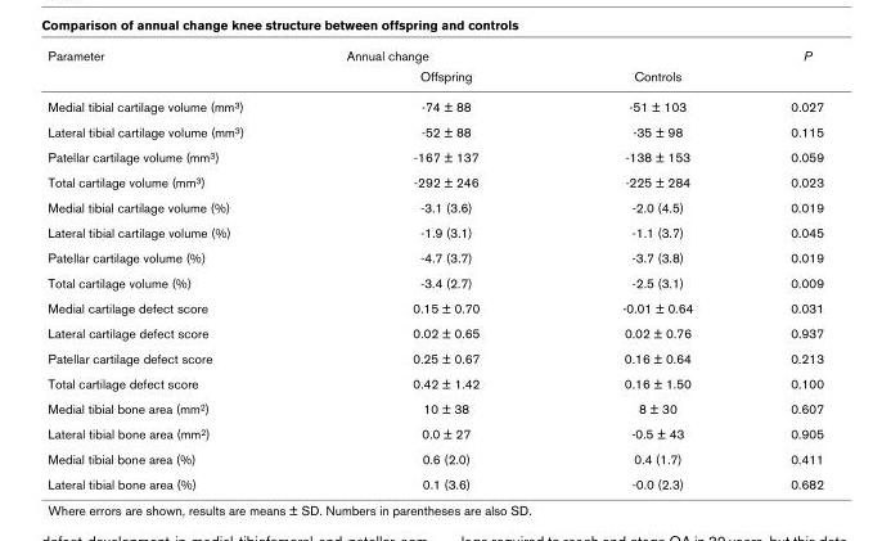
<table><thead><tr><td rowspan="2">Parameter</td><td colspan="2">Annual change</td><td rowspan="2">P</td></tr><tr><td>Offspring</td><td>Controls</td></tr></thead><tbody><tr><td>Medial tibial cartilage volume (mm3)</td><td>-74 ± 88</td><td>-51 ± 103</td><td>0.027</td></tr><tr><td>Lateral tibial cartilage volume (mm3)</td><td>-52 ± 88</td><td>-35 ± 98</td><td>0.115</td></tr><tr><td>Patellar cartilage volume (mm3)</td><td>-167 ± 137</td><td>-138 ± 153</td><td>0.059</td></tr><tr><td>Total cartilage volume (mm3)</td><td>-292 ± 246</td><td>-225 ± 284</td><td>0.023</td></tr><tr><td>Medial tibial cartilage volume (%)</td><td>-3.1 (3.6)</td><td>-2.0 (4.5)</td><td>0.019</td></tr><tr><td>Lateral tibial cartilage volume (%)</td><td>-1.9 (3.1)</td><td>-1.1 (3.7)</td><td>0.045</td></tr><tr><td>Patellar cartilage volume (%)</td><td>-4.7 (3.7)</td><td>-3.7 (3.8)</td><td>0.019</td></tr><tr><td>Total cartilage volume (%)</td><td>-3.4 (2.7)</td><td>-2.5 (3.1)</td><td>0.009</td></tr><tr><td>Medial cartilage defect score</td><td>0.15 ± 0.70</td><td>-0.01 ± 0.64</td><td>0.031</td></tr><tr><td>Lateral cartilage defect score</td><td>0.02 ± 0.65</td><td>0.02 ± 0.76</td><td>0.937</td></tr><tr><td>Patellar cartilage defect score</td><td>0.25 ± 0.67</td><td>0.16 ± 0.64</td><td>0.213</td></tr><tr><td>Total cartilage defect score</td><td>0.42 ± 1.42</td><td>0.16 ± 1.50</td><td>0.100</td></tr><tr><td>Medial tibial bone area (mm2)</td><td>10 ± 38</td><td>8 ± 30</td><td>0.607</td></tr><tr><td>Lateral tibial bone area (mm2)</td><td>0.0 ± 27</td><td>-0.5 ± 43</td><td>0.905</td></tr><tr><td>Medial tibial bone area (%)</td><td>0.6 (2.0)</td><td>0.4 (1.7)</td><td>0.411</td></tr><tr><td>Lateral tibial bone area (%)</td><td>0.1 (3.6)</td><td>-0.0 (2.3)</td><td>0.682</td></tr></tbody></table>